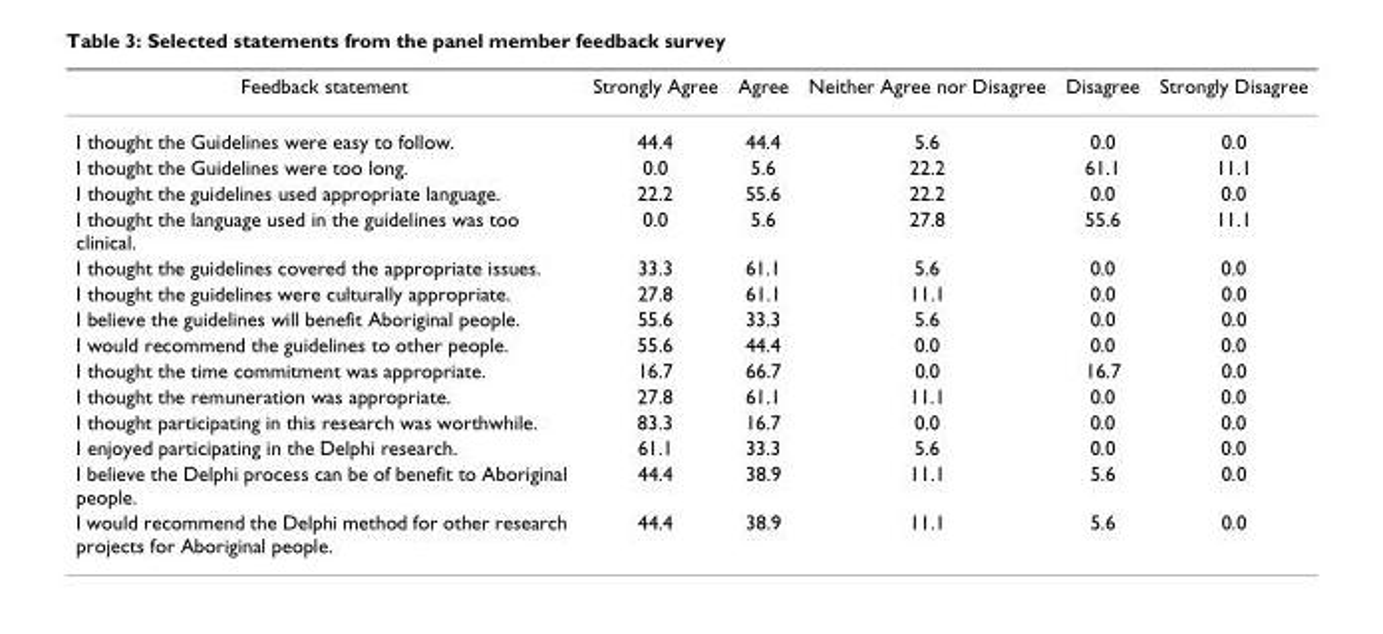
<table><thead><tr><td>Feedback statement</td><td>Strongly Agree</td><td>Agree</td><td>Neither Agree nor Disagree</td><td>Disagree</td><td>Strongly Disagree</td></tr></thead><tbody><tr><td>I thought the Guidelines were easy to follow.</td><td>44.4</td><td>44.4</td><td>5.6</td><td>0.0</td><td>0.0</td></tr><tr><td>I thought the Guidelines were too long.</td><td>0.0</td><td>5.6</td><td>22.2</td><td>61.1</td><td>11.1</td></tr><tr><td>I thought the guidelines used appropriate language.</td><td>22.2</td><td>55.6</td><td>22.2</td><td>0.0</td><td>0.0</td></tr><tr><td>I thought the language used in the guidelines was too clinical.</td><td>0.0</td><td>5.6</td><td>27.8</td><td>55.6</td><td>11.1</td></tr><tr><td>I thought the guidelines covered the appropriate issues.</td><td>33.3</td><td>61.1</td><td>5.6</td><td>0.0</td><td>0.0</td></tr><tr><td>I thought the guidelines were culturally appropriate.</td><td>27.8</td><td>61.1</td><td>11.1</td><td>0.0</td><td>0.0</td></tr><tr><td>I believe the guidelines will benefit Aboriginal people.</td><td>55.6</td><td>33.3</td><td>5.6</td><td>0.0</td><td>0.0</td></tr><tr><td>I would recommend the guidelines to other people.</td><td>55.6</td><td>44.4</td><td>0.0</td><td>0.0</td><td>0.0</td></tr><tr><td>I thought the time commitment was appropriate.</td><td>16.7</td><td>66.7</td><td>0.0</td><td>16.7</td><td>0.0</td></tr><tr><td>I thought the remuneration was appropriate.</td><td>27.8</td><td>61.1</td><td>11.1</td><td>0.0</td><td>0.0</td></tr><tr><td>I thought participating in this research was worthwhile.</td><td>83.3</td><td>16.7</td><td>0.0</td><td>0.0</td><td>0.0</td></tr><tr><td>I enjoyed participating in the Delphi research.</td><td>61.1</td><td>33.3</td><td>5.6</td><td>0.0</td><td>0.0</td></tr><tr><td>I believe the Delphi process can be of benefit to Aboriginal people.</td><td>44.4</td><td>38.9</td><td>11.1</td><td>5.6</td><td>0.0</td></tr><tr><td>I would recommend the Delphi method for other research projects for Aboriginal people.</td><td>44.4</td><td>38.9</td><td>11.1</td><td>5.6</td><td>0.0</td></tr></tbody></table>